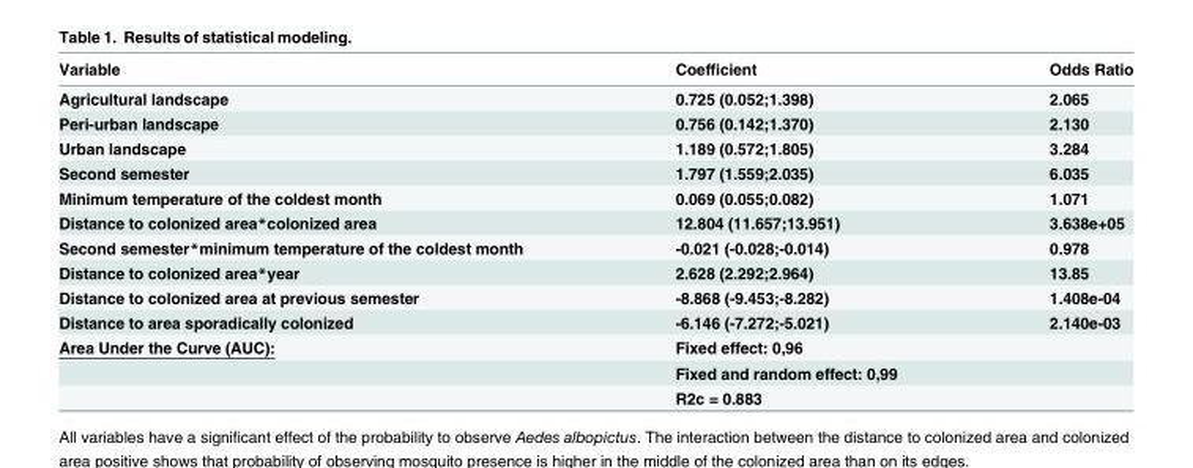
<table><thead><tr><td>Variable</td><td>Coefficient</td><td>Odds Ratio</td></tr></thead><tbody><tr><td>Agricultural landscape</td><td>0.725 (0.052;1.398)</td><td>2.065</td></tr><tr><td>Peri-urban landscape</td><td>0.756 (0.142;1.370)</td><td>2.130</td></tr><tr><td>Urban landscape</td><td>1.189 (0.572;1.805)</td><td>3.284</td></tr><tr><td>Second semester</td><td>1.797 (1.559;2.035)</td><td>6.035</td></tr><tr><td>Minimum temperature of the coldest month</td><td>0.069 (0.055;0.082)</td><td>1.071</td></tr><tr><td>Distance to colonized area*colonized area</td><td>12.804 (11.657;13.951)</td><td>3.638e+05</td></tr><tr><td>Second semester*minimum temperature of the coldest month</td><td>-0.021 (-0.028;-0.014)</td><td>0.978</td></tr><tr><td>Distance to colonized area*year</td><td>2.628 (2.292;2.964)</td><td>13.85</td></tr><tr><td>Distance to colonized area at previous semester</td><td>-8.868 (-9.453;-8.282)</td><td>1.408e-04</td></tr><tr><td>Distance to area sporadically colonized</td><td>-6.146 (-7.272;-5.021)</td><td>2.140e-03</td></tr><tr><td rowspan="3">Area Under the Curve (AUC):</td><td>Fixed effect: 0,96</td><td></td></tr><tr><td>Fixed and random effect: 0,99</td><td></td></tr><tr><td>R2c = 0.883</td><td></td></tr></tbody></table>